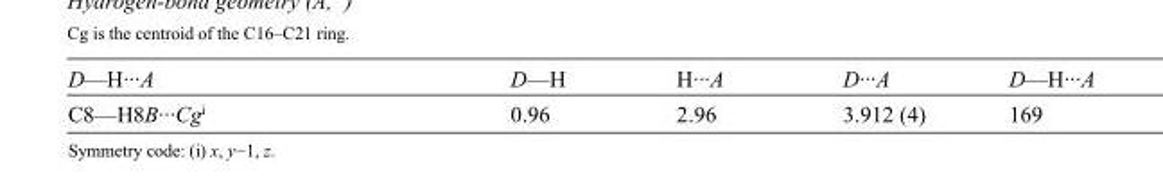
<table><tbody><tr><td>D—H···A</td><td>D—H</td><td>H···A</td><td>D···A</td><td>D—H···A</td></tr><tr><td>C8—H8B···Cg<sup>i</sup></td><td>0.96</td><td>2.96</td><td>3.912 (4)</td><td>169</td></tr></tbody></table>